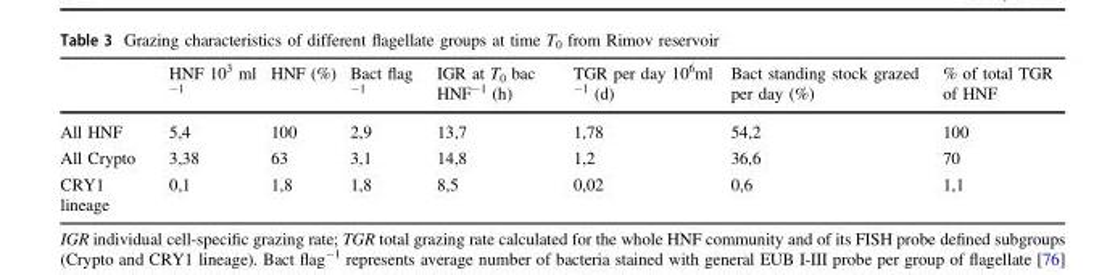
<table><thead><tr><td></td><td>HNF 10<sup>3</sup> ml <sup>−1</sup></td><td>HNF (%)</td><td>Bact flag <sup>−1</sup></td><td>IGR at T<sub>0</sub> bac HNF<sup>−1</sup> (h)</td><td>TGR per day 10<sup>6</sup>ml <sup>−1</sup> (d)</td><td>Bact standing stock grazed per day (%)</td><td>% of total TGR of HNF</td></tr></thead><tbody><tr><td>All HNF</td><td>5,4</td><td>100</td><td>2,9</td><td>13,7</td><td>1,78</td><td>54,2</td><td>100</td></tr><tr><td>All Crypto</td><td>3,38</td><td>63</td><td>3,1</td><td>14,8</td><td>1,2</td><td>36,6</td><td>70</td></tr><tr><td>CRY1 lineage</td><td>0,1</td><td>1,8</td><td>1,8</td><td>8,5</td><td>0,02</td><td>0,6</td><td>1,1</td></tr></tbody></table>